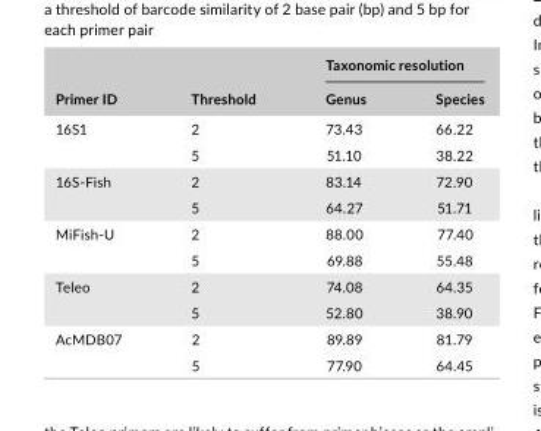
<table><thead><tr><td rowspan="2">Primer ID</td><td rowspan="2">Threshold</td><td colspan="2">Taxonomic resolution</td></tr><tr><td>Genus</td><td>Species</td></tr></thead><tbody><tr><td rowspan="2">16S1</td><td>2</td><td>73.43</td><td>66.22</td></tr><tr><td>5</td><td>51.10</td><td>38.22</td></tr><tr><td rowspan="2">16S- Fish</td><td>2</td><td>83.14</td><td>72.90</td></tr><tr><td>5</td><td>64.27</td><td>51.71</td></tr><tr><td rowspan="2">MiFish- U</td><td>2</td><td>88.00</td><td>77.40</td></tr><tr><td>5</td><td>69.88</td><td>55.48</td></tr><tr><td rowspan="2">Teleo</td><td>2</td><td>74.08</td><td>64.35</td></tr><tr><td>5</td><td>52.80</td><td>38.90</td></tr><tr><td rowspan="2">AcMDB07</td><td>2</td><td>89.89</td><td>81.79</td></tr><tr><td>5</td><td>77.90</td><td>64.45</td></tr></tbody></table>